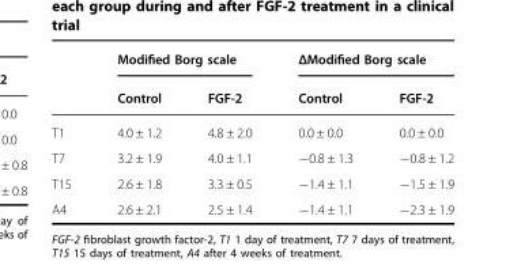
<table><thead><tr><td rowspan="2"></td><td colspan="2">Modified Borg scale</td><td colspan="2">ΔModified Borg scale</td></tr><tr><td>Control</td><td>FGF-2</td><td>Control</td><td>FGF-2</td></tr></thead><tbody><tr><td>T1</td><td>4.0 ± 1.2</td><td>4.8 ± 2.0</td><td>0.0 ± 0.0</td><td>0.0 ± 0.0</td></tr><tr><td>T7</td><td>3.2 ± 1.9</td><td>4.0 ± 1.1</td><td>−0.8 ± 1.3</td><td>−0.8 ± 1.2</td></tr><tr><td>T15</td><td>2.6 ± 1.8</td><td>3.3 ± 0.5</td><td>−1.4 ± 1.1</td><td>−1.5 ± 1.9</td></tr><tr><td>A4</td><td>2.6 ± 2.1</td><td>2.5 ± 1.4</td><td>−1.4 ± 1.1</td><td>−2.3 ± 1.9</td></tr></tbody></table>